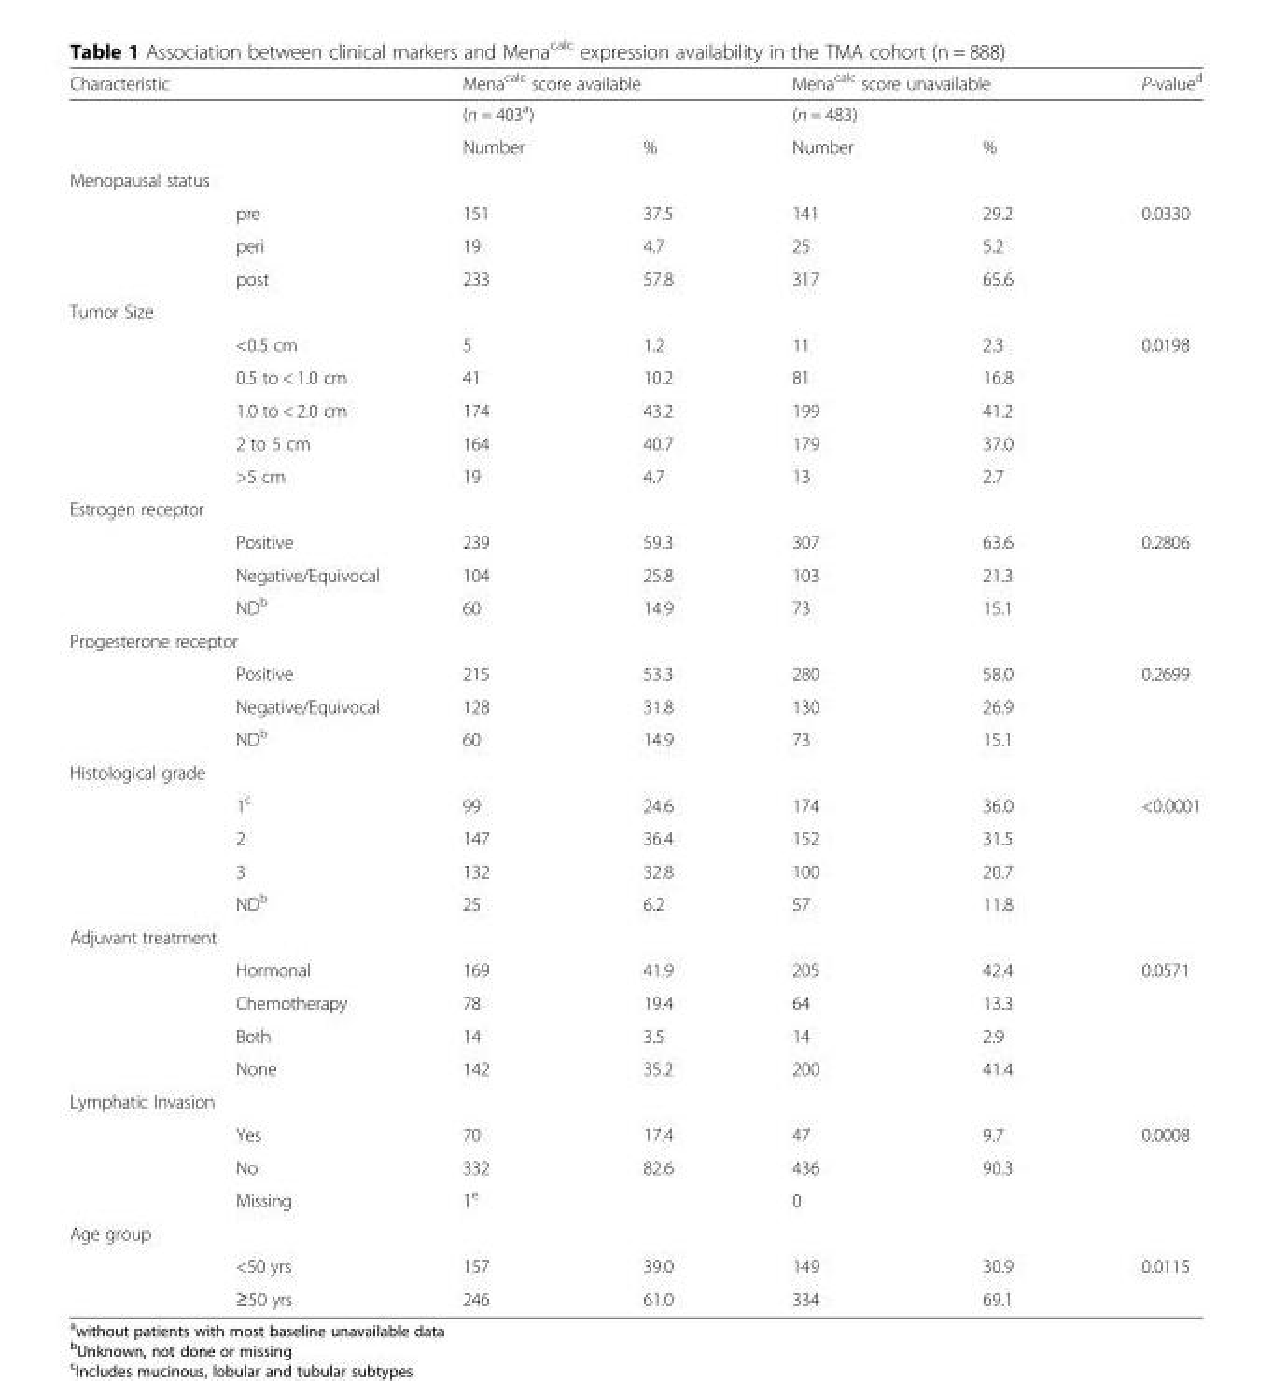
<table><thead><tr><td colspan="2">Characteristic</td><td colspan="2">Mena<sup>calc</sup> score available</td><td colspan="2">Mena<sup>calc</sup> score unavailable</td><td>P-value<sup>d</sup></td></tr></thead><tbody><tr><td colspan="2"></td><td colspan="2">(n = 403<sup>a</sup>)</td><td colspan="2">(n = 483)</td><td></td></tr><tr><td colspan="2"></td><td>Number</td><td>%</td><td>Number</td><td>%</td><td></td></tr><tr><td colspan="7">Menopausal status</td></tr><tr><td></td><td>pre</td><td>151</td><td>37.5</td><td>141</td><td>29.2</td><td>0.0330</td></tr><tr><td></td><td>peri</td><td>19</td><td>4.7</td><td>25</td><td>5.2</td><td></td></tr><tr><td></td><td>post</td><td>233</td><td>57.8</td><td>317</td><td>65.6</td><td></td></tr><tr><td colspan="7">Tumor Size</td></tr><tr><td></td><td>&lt;0.5 cm</td><td>5</td><td>1.2</td><td>11</td><td>2.3</td><td>0.0198</td></tr><tr><td></td><td>0.5 to &lt; 1.0 cm</td><td>41</td><td>10.2</td><td>81</td><td>16.8</td><td></td></tr><tr><td></td><td>1.0 to &lt; 2.0 cm</td><td>174</td><td>43.2</td><td>199</td><td>41.2</td><td></td></tr><tr><td></td><td>2 to 5 cm</td><td>164</td><td>40.7</td><td>179</td><td>37.0</td><td></td></tr><tr><td></td><td>&gt;5 cm</td><td>19</td><td>4.7</td><td>13</td><td>2.7</td><td></td></tr><tr><td colspan="7">Estrogen receptor</td></tr><tr><td></td><td>Positive</td><td>239</td><td>59.3</td><td>307</td><td>63.6</td><td>0.2806</td></tr><tr><td></td><td>Negative/Equivocal</td><td>104</td><td>25.8</td><td>103</td><td>21.3</td><td></td></tr><tr><td></td><td>ND<sup>b</sup></td><td>60</td><td>14.9</td><td>73</td><td>15.1</td><td></td></tr><tr><td colspan="7">Progesterone receptor</td></tr><tr><td></td><td>Positive</td><td>215</td><td>53.3</td><td>280</td><td>58.0</td><td>0.2699</td></tr><tr><td></td><td>Negative/Equivocal</td><td>128</td><td>31.8</td><td>130</td><td>26.9</td><td></td></tr><tr><td></td><td>ND<sup>b</sup></td><td>60</td><td>14.9</td><td>73</td><td>15.1</td><td></td></tr><tr><td colspan="7">Histological grade</td></tr><tr><td></td><td>1<sup>c</sup></td><td>99</td><td>24.6</td><td>174</td><td>36.0</td><td>&lt;0.0001</td></tr><tr><td></td><td>2</td><td>147</td><td>36.4</td><td>152</td><td>31.5</td><td></td></tr><tr><td></td><td>3</td><td>132</td><td>32.8</td><td>100</td><td>20.7</td><td></td></tr><tr><td></td><td>ND<sup>b</sup></td><td>25</td><td>6.2</td><td>57</td><td>11.8</td><td></td></tr><tr><td colspan="7">Adjuvant treatment</td></tr><tr><td></td><td>Hormonal</td><td>169</td><td>41.9</td><td>205</td><td>42.4</td><td>0.0571</td></tr><tr><td></td><td>Chemotherapy</td><td>78</td><td>19.4</td><td>64</td><td>13.3</td><td></td></tr><tr><td></td><td>Both</td><td>14</td><td>3.5</td><td>14</td><td>2.9</td><td></td></tr><tr><td></td><td>None</td><td>142</td><td>35.2</td><td>200</td><td>41.4</td><td></td></tr><tr><td colspan="7">Lymphatic Invasion</td></tr><tr><td></td><td>Yes</td><td>70</td><td>17.4</td><td>47</td><td>9.7</td><td>0.0008</td></tr><tr><td></td><td>No</td><td>332</td><td>82.6</td><td>436</td><td>90.3</td><td></td></tr><tr><td></td><td>Missing</td><td>1<sup>e</sup></td><td></td><td>0</td><td></td><td></td></tr><tr><td colspan="7">Age group</td></tr><tr><td></td><td>&lt;50 yrs</td><td>157</td><td>39.0</td><td>149</td><td>30.9</td><td>0.0115</td></tr><tr><td></td><td>≥50 yrs</td><td>246</td><td>61.0</td><td>334</td><td>69.1</td><td></td></tr></tbody></table>